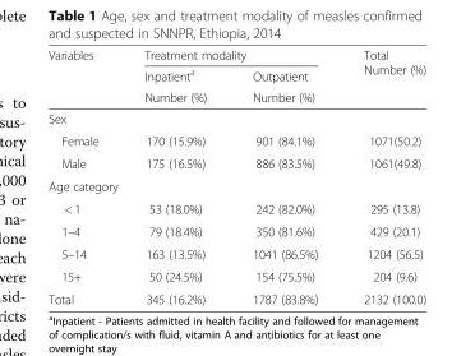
<table><thead><tr><td rowspan="3">Variables</td><td colspan="2">Treatment modality</td><td rowspan="3">Total Number (%)</td></tr><tr><td rowspan="2">Inpatient<sup>a</sup> Number (%)</td><td rowspan="2">Outpatient Number (%)</td></tr><tr></tr></thead><tbody><tr><td colspan="4">Sex</td></tr><tr><td>Female</td><td>170 (15.9%)</td><td>901 (84.1%)</td><td>1071(50.2)</td></tr><tr><td>Male</td><td>175 (16.5%)</td><td>886 (83.5%)</td><td>1061(49.8)</td></tr><tr><td colspan="4">Age category</td></tr><tr><td>&lt; 1</td><td>53 (18.0%)</td><td>242 (82.0%)</td><td>295 (13.8)</td></tr><tr><td>1–4</td><td>79 (18.4%)</td><td>350 (81.6%)</td><td>429 (20.1)</td></tr><tr><td>5–14</td><td>163 (13.5%)</td><td>1041 (86.5%)</td><td>1204 (56.5)</td></tr><tr><td>15+</td><td>50 (24.5%)</td><td>154 (75.5%)</td><td>204 (9.6)</td></tr><tr><td>Total</td><td>345 (16.2%)</td><td>1787 (83.8%)</td><td>2132 (100.0)</td></tr></tbody></table>